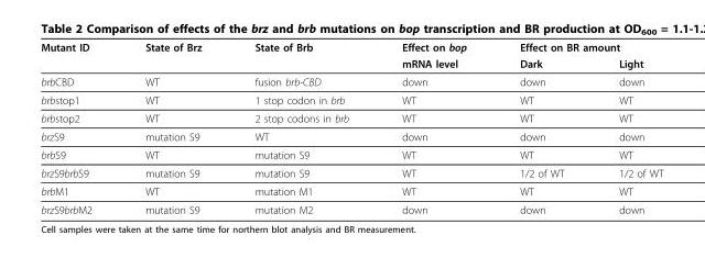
<table><thead><tr><td rowspan="2">Mutant ID</td><td rowspan="2">State of Brz</td><td rowspan="2">State of Brb</td><td rowspan="2">Effect on bop mRNA level</td><td colspan="2">Effect on BR amount</td></tr><tr><td>Dark</td><td>Light</td></tr></thead><tbody><tr><td>brbCBD</td><td>WT</td><td>fusion brb-CBD</td><td>down</td><td>down</td><td>down</td></tr><tr><td>brbstop1</td><td>WT</td><td>1 stop codon in brb</td><td>WT</td><td>WT</td><td>WT</td></tr><tr><td>brbstop2</td><td>WT</td><td>2 stop codons in brb</td><td>WT</td><td>WT</td><td>WT</td></tr><tr><td>brzS9</td><td>mutation S9</td><td>WT</td><td>down</td><td>down</td><td>down</td></tr><tr><td>brbS9</td><td>WT</td><td>mutation S9</td><td>WT</td><td>WT</td><td>WT</td></tr><tr><td>brzS9brbS9</td><td>mutation S9</td><td>mutation S9</td><td>WT</td><td>1/2 of WT</td><td>1/2 of WT</td></tr><tr><td>brbM1</td><td>WT</td><td>mutation M1</td><td>WT</td><td>WT</td><td>WT</td></tr><tr><td>brzS9brbM2</td><td>mutation S9</td><td>mutation M2</td><td>down</td><td>down</td><td>down</td></tr></tbody></table>